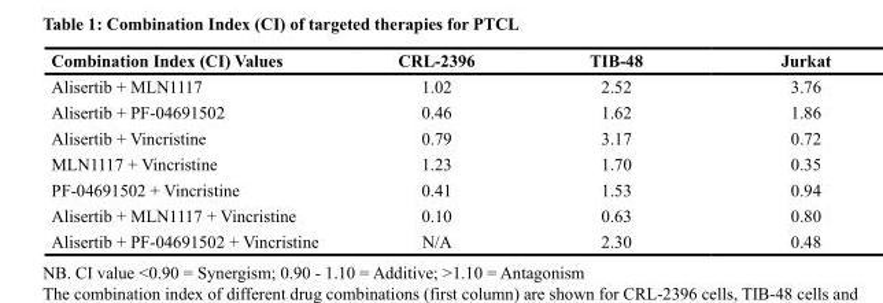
<table><thead><tr><td>Combination Index (CI) Values</td><td>CRL-2396</td><td>TIB-48</td><td>Jurkat</td></tr></thead><tbody><tr><td>Alisertib + MLN1117</td><td>1.02</td><td>2.52</td><td>3.76</td></tr><tr><td>Alisertib + PF-04691502</td><td>0.46</td><td>1.62</td><td>1.86</td></tr><tr><td>Alisertib + Vincristine</td><td>0.79</td><td>3.17</td><td>0.72</td></tr><tr><td>MLN1117 + Vincristine</td><td>1.23</td><td>1.70</td><td>0.35</td></tr><tr><td>PF-04691502 + Vincristine</td><td>0.41</td><td>1.53</td><td>0.94</td></tr><tr><td>Alisertib + MLN1117 + Vincristine</td><td>0.10</td><td>0.63</td><td>0.80</td></tr><tr><td>Alisertib + PF-04691502 + Vincristine</td><td>N/A</td><td>2.30</td><td>0.48</td></tr></tbody></table>